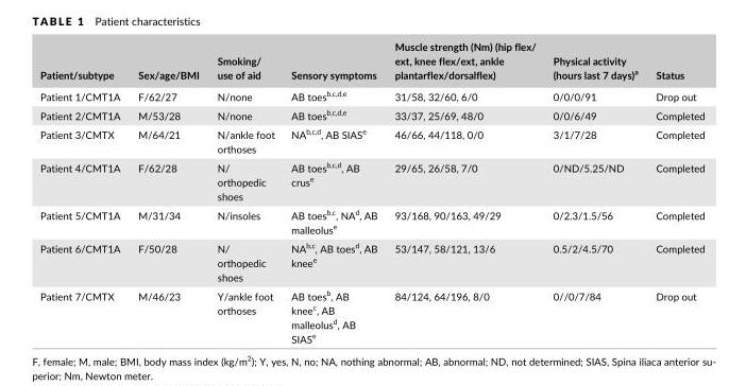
<table><thead><tr><td>Patient/subtype</td><td>Sex/age/BMI</td><td>Smoking/ use of aid</td><td>Sensory symptoms</td><td>Muscle strength (Nm) (hip flex/ ext, knee flex/ext, ankle plantarflex/dorsalflex)</td><td>Physical activity (hours last 7 days)<sup>a</sup></td><td>Status</td></tr></thead><tbody><tr><td>Patient 1/CMT1A</td><td>F/62/27</td><td>N/none</td><td>AB toes<sup>b,</sup>c<sup>,</sup>d<sup>,</sup>e</td><td>31/58, 32/60, 6/0</td><td>0/0/0/91</td><td>Drop out</td></tr><tr><td>Patient 2/CMT1A</td><td>M/53/28</td><td>N/none</td><td>AB toes<sup>b,</sup>c<sup>,</sup>d<sup>,</sup>e</td><td>33/37, 25/69, 48/0</td><td>0/0/6/49</td><td>Completed</td></tr><tr><td>Patient 3/CMTX</td><td>M/64/21</td><td>N/ankle foot orthoses</td><td>NA<sup>b,</sup>c<sup>,</sup>d, AB SIAS<sup>e</sup></td><td>46/66, 44/118, 0/0</td><td>3/1/7/28</td><td>Completed</td></tr><tr><td>Patient 4/CMT1A</td><td>F/62/28</td><td>N/ orthopedic shoes</td><td>AB toes<sup>b,</sup>c<sup>,</sup>d, AB crus<sup>e</sup></td><td>29/65, 26/58, 7/0</td><td>0/ND/5.25/ND</td><td>Completed</td></tr><tr><td>Patient 5/CMT1A</td><td>M/31/34</td><td>N/insoles</td><td>AB toes<sup>b,</sup>c, NA<sup>d</sup>, AB malleolus<sup>e</sup></td><td>93/168, 90/163, 49/29</td><td>0/2.3/1.5/56</td><td>Completed</td></tr><tr><td>Patient 6/CMT1A</td><td>F/50/28</td><td>N/ orthopedic shoes</td><td>NA<sup>b,</sup>c, AB toes<sup>d</sup>, AB knee<sup>e</sup></td><td>53/147, 58/121, 13/6</td><td>0.5/2/4.5/70</td><td>Completed</td></tr><tr><td>Patient 7/CMTX</td><td>M/46/23</td><td>Y/ankle foot orthoses</td><td>AB toes<sup>b</sup>, AB knee<sup>c</sup>, AB malleolus<sup>d</sup>, AB SIAS<sup>e</sup></td><td>84/124, 64/196, 8/0</td><td>0//0/7/84</td><td>Drop out</td></tr></tbody></table>